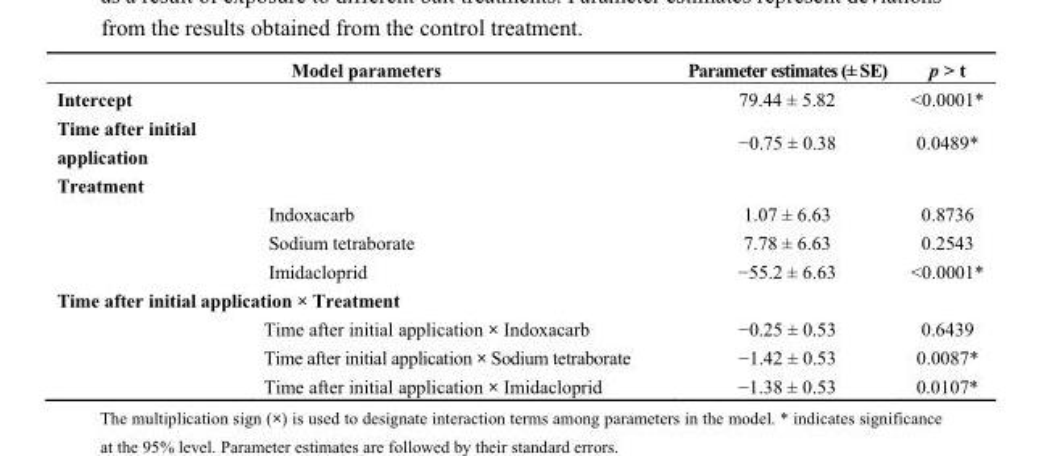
<table><thead><tr><td colspan="2">Model parameters</td><td rowspan="2">Parameter estimates (± SE) 79.44 ± 5.82</td><td rowspan="2">p &gt; t &lt;0.0001*</td></tr><tr><td>Intercept</td><td></td></tr></thead><tbody><tr><td>Time after initial application</td><td></td><td>−0.75 ± 0.38</td><td>0.0489*</td></tr><tr><td colspan="4">Treatment</td></tr><tr><td></td><td>Indoxacarb</td><td>1.07 ± 6.63</td><td>0.8736</td></tr><tr><td></td><td>Sodium tetraborate</td><td>7.78 ± 6.63</td><td>0.2543</td></tr><tr><td></td><td>Imidacloprid</td><td>−55.2 ± 6.63</td><td>&lt;0.0001*</td></tr><tr><td colspan="4">Time after initial application × Treatment</td></tr><tr><td></td><td>Time after initial application × Indoxacarb</td><td>−0.25 ± 0.53</td><td>0.6439</td></tr><tr><td></td><td>Time after initial application × Sodium tetraborate</td><td>−1.42 ± 0.53</td><td>0.0087*</td></tr><tr><td></td><td>Time after initial application × Imidacloprid</td><td>−1.38 ± 0.53</td><td>0.0107*</td></tr></tbody></table>